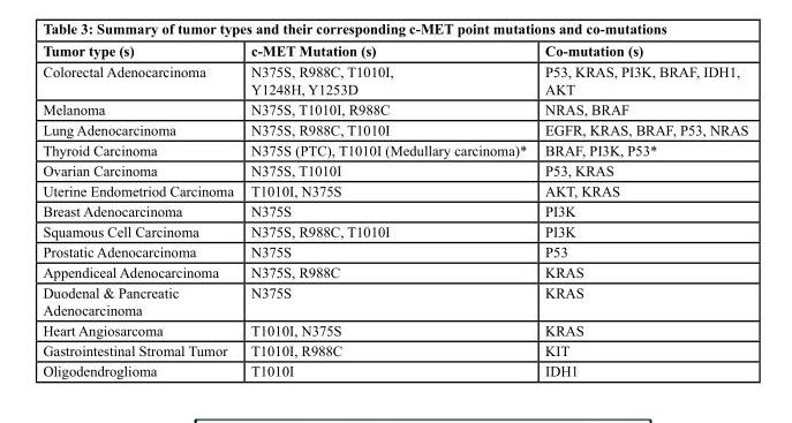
<table><thead><tr><td>Tumor type (s)</td><td>c‑MET Mutation (s)</td><td>Co‑mutation (s)</td></tr></thead><tbody><tr><td>Colorectal Adenocarcinoma</td><td>N375S, R988C, T1010I, Y1248H, Y1253D</td><td>P53, KRAS, PI3K, BRAF, IDH1, AKT</td></tr><tr><td>Melanoma</td><td>N375S, T1010I, R988C</td><td>NRAS, BRAF</td></tr><tr><td>Lung Adenocarcinoma</td><td>N375S, R988C, T1010I</td><td>EGFR, KRAS, BRAF, P53, NRAS</td></tr><tr><td>Thyroid Carcinoma</td><td>N375S (PTC), T1010I (Medullary carcinoma)*</td><td>BRAF, PI3K, P53*</td></tr><tr><td>Ovarian Carcinoma</td><td>N375S, T1010I</td><td>P53, KRAS</td></tr><tr><td>Uterine Endometriod Carcinoma</td><td>T1010I, N375S</td><td>AKT, KRAS</td></tr><tr><td>Breast Adenocarcinoma</td><td>N375S</td><td>PI3K</td></tr><tr><td>Squamous Cell Carcinoma</td><td>N375S, R988C, T1010I</td><td>PI3K</td></tr><tr><td>Prostatic Adenocarcinoma</td><td>N375S</td><td>P53</td></tr><tr><td>Appendiceal Adenocarcinoma</td><td>N375S, R988C</td><td>KRAS</td></tr><tr><td>Duodenal &amp; Pancreatic Adenocarcinoma</td><td>N375S</td><td>KRAS</td></tr><tr><td>Heart Angiosarcoma</td><td>T1010I, N375S</td><td>KRAS</td></tr><tr><td>Gastrointestinal Stromal Tumor</td><td>T1010I, R988C</td><td>KIT</td></tr><tr><td>Oligodendroglioma</td><td>T1010I</td><td>IDH1</td></tr></tbody></table>